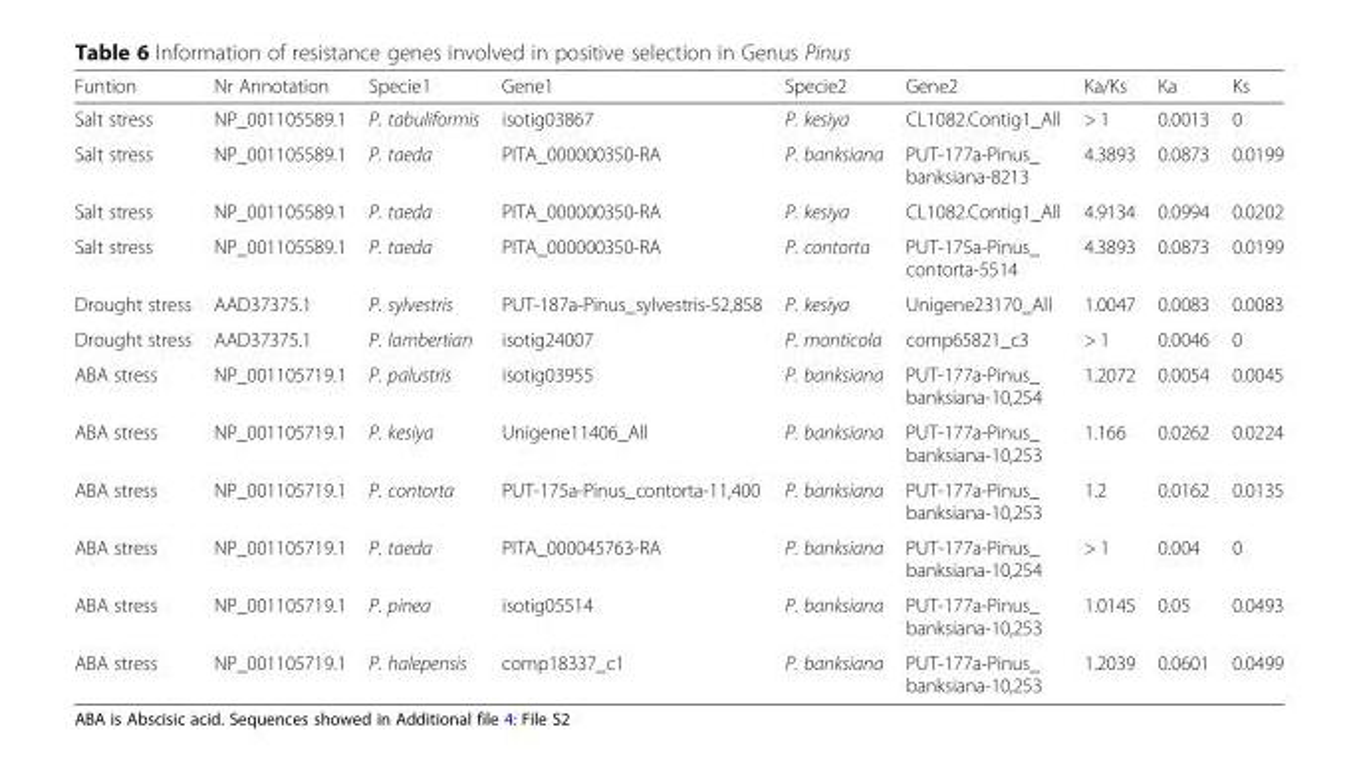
<table><thead><tr><td>Funtion</td><td>Nr Annotation</td><td>Specie1</td><td>Gene1</td><td>Specie2</td><td>Gene2</td><td>Ka/Ks</td><td>Ka</td><td>Ks</td></tr></thead><tbody><tr><td>Salt stress</td><td>NP_001105589.1</td><td>P. tabuliformis</td><td>isotig03867</td><td>P. kesiya</td><td>CL1082.Contig1_All</td><td>&gt; 1</td><td>0.0013</td><td>0</td></tr><tr><td>Salt stress</td><td>NP_001105589.1</td><td>P. taeda</td><td>PITA_000000350-RA</td><td>P. banksiana</td><td>PUT-177a-Pinus_ banksiana-8213</td><td>4.3893</td><td>0.0873</td><td>0.0199</td></tr><tr><td>Salt stress</td><td>NP_001105589.1</td><td>P. taeda</td><td>PITA_000000350-RA</td><td>P. kesiya</td><td>CL1082.Contig1_All</td><td>4.9134</td><td>0.0994</td><td>0.0202</td></tr><tr><td>Salt stress</td><td>NP_001105589.1</td><td>P. taeda</td><td>PITA_000000350-RA</td><td>P. contorta</td><td>PUT-175a-Pinus_ contorta-5514</td><td>4.3893</td><td>0.0873</td><td>0.0199</td></tr><tr><td>Drought stress</td><td>AAD37375.1</td><td>P. sylvestris</td><td>PUT-187a-Pinus_sylvestris-52,858</td><td>P. kesiya</td><td>Unigene23170_All</td><td>1.0047</td><td>0.0083</td><td>0.0083</td></tr><tr><td>Drought stress</td><td>AAD37375.1</td><td>P. lambertian</td><td>isotig24007</td><td>P. monticola</td><td>comp65821_c3</td><td>&gt; 1</td><td>0.0046</td><td>0</td></tr><tr><td>ABA stress</td><td>NP_001105719.1</td><td>P. palustris</td><td>isotig03955</td><td>P. banksiana</td><td>PUT-177a-Pinus_ banksiana-10,254</td><td>1.2072</td><td>0.0054</td><td>0.0045</td></tr><tr><td>ABA stress</td><td>NP_001105719.1</td><td>P. kesiya</td><td>Unigene11406_All</td><td>P. banksiana</td><td>PUT-177a-Pinus_ banksiana-10,253</td><td>1.166</td><td>0.0262</td><td>0.0224</td></tr><tr><td>ABA stress</td><td>NP_001105719.1</td><td>P. contorta</td><td>PUT-175a-Pinus_contorta-11,400</td><td>P. banksiana</td><td>PUT-177a-Pinus_ banksiana-10,253</td><td>1.2</td><td>0.0162</td><td>0.0135</td></tr><tr><td>ABA stress</td><td>NP_001105719.1</td><td>P. taeda</td><td>PITA_000045763-RA</td><td>P. banksiana</td><td>PUT-177a-Pinus_ banksiana-10,254</td><td>&gt; 1</td><td>0.004</td><td>0</td></tr><tr><td>ABA stress</td><td>NP_001105719.1</td><td>P. pinea</td><td>isotig05514</td><td>P. banksiana</td><td>PUT-177a-Pinus_ banksiana-10,253</td><td>1.0145</td><td>0.05</td><td>0.0493</td></tr><tr><td>ABA stress</td><td>NP_001105719.1</td><td>P. halepensis</td><td>comp18337_c1</td><td>P. banksiana</td><td>PUT-177a-Pinus_ banksiana-10,253</td><td>1.2039</td><td>0.0601</td><td>0.0499</td></tr></tbody></table>